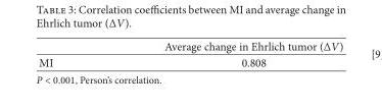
<table><thead><tr><td></td><td>Average change in Ehrlich tumor (ΔV)</td></tr></thead><tbody><tr><td>MI</td><td>0.808</td></tr></tbody></table>